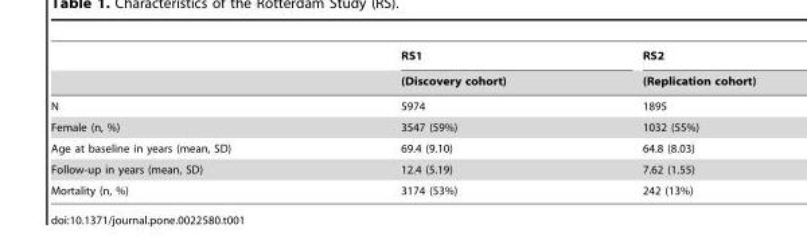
<table><thead><tr><td rowspan="2"></td><td rowspan="2">RS1 (Discovery cohort)</td><td rowspan="2">RS2 (Replication cohort)</td></tr><tr></tr></thead><tbody><tr><td>N</td><td>5974</td><td>1895</td></tr><tr><td>Female (n, %)</td><td>3547 (59%)</td><td>1032 (55%)</td></tr><tr><td>Age at baseline in years (mean, SD)</td><td>69.4 (9.10)</td><td>64.8 (8.03)</td></tr><tr><td>Follow-up in years (mean, SD)</td><td>12.4 (5.19)</td><td>7.62 (1.55)</td></tr><tr><td>Mortality (n, %)</td><td>3174 (53%)</td><td>242 (13%)</td></tr></tbody></table>